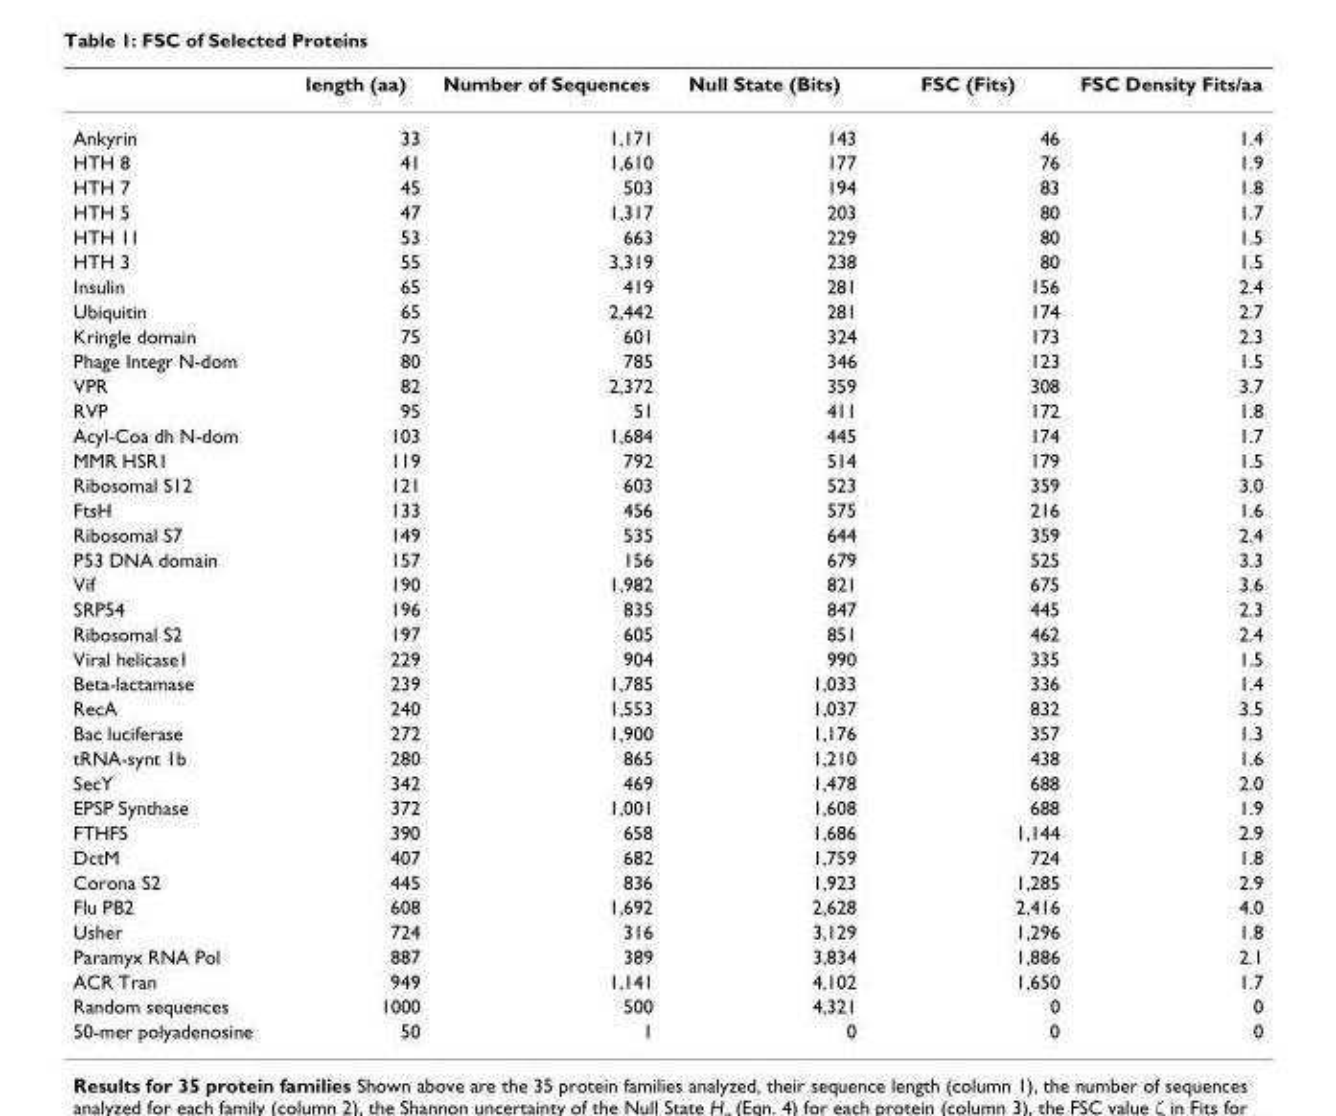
<table><thead><tr><td></td><td>length (aa)</td><td>Number of Sequences</td><td>Null State (Bits)</td><td>FSC (Fits)</td><td>FSC Density Fits/aa</td></tr></thead><tbody><tr><td>Ankyrin</td><td>33</td><td>1,171</td><td>143</td><td>46</td><td>1.4</td></tr><tr><td>HTH 8</td><td>41</td><td>1,610</td><td>177</td><td>76</td><td>1.9</td></tr><tr><td>HTH 7</td><td>45</td><td>503</td><td>194</td><td>83</td><td>1.8</td></tr><tr><td>HTH 5</td><td>47</td><td>1,317</td><td>203</td><td>80</td><td>1.7</td></tr><tr><td>HTH 11</td><td>53</td><td>663</td><td>229</td><td>80</td><td>1.5</td></tr><tr><td>HTH 3</td><td>55</td><td>3,319</td><td>238</td><td>80</td><td>1.5</td></tr><tr><td>Insulin</td><td>65</td><td>419</td><td>281</td><td>156</td><td>2.4</td></tr><tr><td>Ubiquitin</td><td>65</td><td>2,442</td><td>281</td><td>174</td><td>2.7</td></tr><tr><td>Kringle domain</td><td>75</td><td>601</td><td>324</td><td>173</td><td>2.3</td></tr><tr><td>Phage Integr N-dom</td><td>80</td><td>785</td><td>346</td><td>123</td><td>1.5</td></tr><tr><td>VPR</td><td>82</td><td>2,372</td><td>359</td><td>308</td><td>3.7</td></tr><tr><td>RVP</td><td>95</td><td>51</td><td>411</td><td>172</td><td>1.8</td></tr><tr><td>Acyl-Coa dh N-dom</td><td>103</td><td>1,684</td><td>445</td><td>174</td><td>1.7</td></tr><tr><td>MMR HSR1</td><td>119</td><td>792</td><td>514</td><td>179</td><td>1.5</td></tr><tr><td>Ribosomal S12</td><td>121</td><td>603</td><td>523</td><td>359</td><td>3.0</td></tr><tr><td>FtsH</td><td>133</td><td>456</td><td>575</td><td>216</td><td>1.6</td></tr><tr><td>Ribosomal S7</td><td>149</td><td>535</td><td>644</td><td>359</td><td>2.4</td></tr><tr><td>P53 DNA domain</td><td>157</td><td>156</td><td>679</td><td>525</td><td>3.3</td></tr><tr><td>Vif</td><td>190</td><td>1,982</td><td>821</td><td>675</td><td>3.6</td></tr><tr><td>SRP54</td><td>196</td><td>835</td><td>847</td><td>445</td><td>2.3</td></tr><tr><td>Ribosomal S2</td><td>197</td><td>605</td><td>851</td><td>462</td><td>2.4</td></tr><tr><td>Viral helicase1</td><td>229</td><td>904</td><td>990</td><td>335</td><td>1.5</td></tr><tr><td>Beta-lactamase</td><td>239</td><td>1,785</td><td>1,033</td><td>336</td><td>1.4</td></tr><tr><td>RecA</td><td>240</td><td>1,553</td><td>1,037</td><td>832</td><td>3.5</td></tr><tr><td>Bac luciferase</td><td>272</td><td>1,900</td><td>1,176</td><td>357</td><td>1.3</td></tr><tr><td>tRNA-synt 1b</td><td>280</td><td>865</td><td>1,210</td><td>438</td><td>1.6</td></tr><tr><td>SecY</td><td>342</td><td>469</td><td>1,478</td><td>688</td><td>2.0</td></tr><tr><td>EPSP Synthase</td><td>372</td><td>1,001</td><td>1,608</td><td>688</td><td>1.9</td></tr><tr><td>FTHFS</td><td>390</td><td>658</td><td>1,686</td><td>1,144</td><td>2.9</td></tr><tr><td>DctM</td><td>407</td><td>682</td><td>1,759</td><td>724</td><td>1.8</td></tr><tr><td>Corona S2</td><td>445</td><td>836</td><td>1,923</td><td>1,285</td><td>2.9</td></tr><tr><td>Flu PB2</td><td>608</td><td>1,692</td><td>2,628</td><td>2,416</td><td>4.0</td></tr><tr><td>Usher</td><td>724</td><td>316</td><td>3,129</td><td>1,296</td><td>1.8</td></tr><tr><td>Paramyx RNA Pol</td><td>887</td><td>389</td><td>3,834</td><td>1,886</td><td>2.1</td></tr><tr><td>ACR Tran</td><td>949</td><td>1,141</td><td>4,102</td><td>1,650</td><td>1.7</td></tr><tr><td>Random sequences</td><td>1000</td><td>500</td><td>4,321</td><td>0</td><td>0</td></tr><tr><td>50-mer polyadenosine</td><td>50</td><td>1</td><td>0</td><td>0</td><td>0</td></tr></tbody></table>